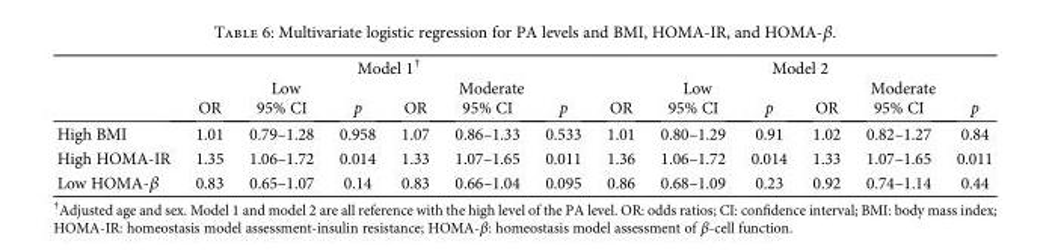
<table><thead><tr><td rowspan="3"></td><td colspan="6">Model 1<sup>†</sup></td><td colspan="6">Model 2</td></tr><tr><td colspan="3">Low</td><td colspan="3">Moderate</td><td colspan="3">Low</td><td colspan="3">Moderate</td></tr><tr><td>OR</td><td>95% CI</td><td>p</td><td>OR</td><td>95% CI</td><td>p</td><td>OR</td><td>95% CI</td><td>p</td><td>OR</td><td>95% CI</td><td>p</td></tr></thead><tbody><tr><td>High BMI</td><td>1.01</td><td>0.79–1.28</td><td>0.958</td><td>1.07</td><td>0.86–1.33</td><td>0.533</td><td>1.01</td><td>0.80–1.29</td><td>0.91</td><td>1.02</td><td>0.82–1.27</td><td>0.84</td></tr><tr><td>High HOMA-IR</td><td>1.35</td><td>1.06–1.72</td><td>0.014</td><td>1.33</td><td>1.07–1.65</td><td>0.011</td><td>1.36</td><td>1.06–1.72</td><td>0.014</td><td>1.33</td><td>1.07–1.65</td><td>0.011</td></tr><tr><td>Low HOMA-β</td><td>0.83</td><td>0.65–1.07</td><td>0.14</td><td>0.83</td><td>0.66–1.04</td><td>0.095</td><td>0.86</td><td>0.68–1.09</td><td>0.23</td><td>0.92</td><td>0.74–1.14</td><td>0.44</td></tr></tbody></table>